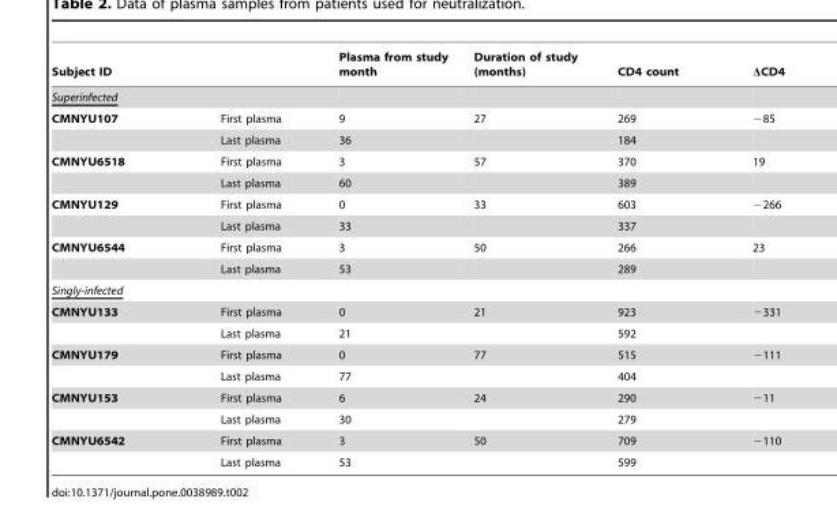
<table><thead><tr><td colspan="2">Subject ID</td><td rowspan="2">Plasma from study month</td><td rowspan="2">Duration of study (months)</td><td rowspan="2">CD4 count</td><td rowspan="2">ΔCD4</td></tr><tr><td>Superinfected</td><td></td></tr></thead><tbody><tr><td rowspan="2">CMNYU107</td><td>First plasma</td><td>9</td><td>27</td><td>269</td><td>−85</td></tr><tr><td>Last plasma</td><td>36</td><td></td><td>184</td><td></td></tr><tr><td rowspan="2">CMNYU6518</td><td>First plasma</td><td>3</td><td>57</td><td>370</td><td>19</td></tr><tr><td>Last plasma</td><td>60</td><td></td><td>389</td><td></td></tr><tr><td rowspan="2">CMNYU129</td><td>First plasma</td><td>0</td><td>33</td><td>603</td><td>−266</td></tr><tr><td>Last plasma</td><td>33</td><td></td><td>337</td><td></td></tr><tr><td rowspan="2">CMNYU6544</td><td>First plasma</td><td>3</td><td>50</td><td>266</td><td>23</td></tr><tr><td>Last plasma</td><td>53</td><td></td><td>289</td><td></td></tr><tr><td colspan="6">Singly-infected</td></tr><tr><td rowspan="2">CMNYU133</td><td>First plasma</td><td>0</td><td>21</td><td>923</td><td>−331</td></tr><tr><td>Last plasma</td><td>21</td><td></td><td>592</td><td></td></tr><tr><td rowspan="2">CMNYU179</td><td>First plasma</td><td>0</td><td>77</td><td>515</td><td>−111</td></tr><tr><td>Last plasma</td><td>77</td><td></td><td>404</td><td></td></tr><tr><td rowspan="2">CMNYU153</td><td>First plasma</td><td>6</td><td>24</td><td>290</td><td>−11</td></tr><tr><td>Last plasma</td><td>30</td><td></td><td>279</td><td></td></tr><tr><td rowspan="2">CMNYU6542</td><td>First plasma</td><td>3</td><td>50</td><td>709</td><td>−110</td></tr><tr><td>Last plasma</td><td>53</td><td></td><td>599</td><td></td></tr></tbody></table>